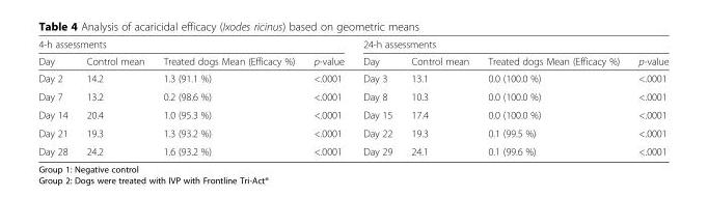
<table><thead><tr><td colspan="4">4-h assessments</td><td colspan="4">24-h assessments</td></tr><tr><td>Day</td><td>Control mean</td><td>Treated dogs Mean (Efficacy %)</td><td>p-value</td><td>Day</td><td>Control mean</td><td>Treated dogs Mean (Efficacy %)</td><td>p-value</td></tr></thead><tbody><tr><td>Day 2</td><td>14.2</td><td>1.3 (91.1 %)</td><td>&lt;.0001</td><td>Day 3</td><td>13.1</td><td>0.0 (100.0 %)</td><td>&lt;.0001</td></tr><tr><td>Day 7</td><td>13.2</td><td>0.2 (98.6 %)</td><td>&lt;.0001</td><td>Day 8</td><td>10.3</td><td>0.0 (100.0 %)</td><td>&lt;.0001</td></tr><tr><td>Day 14</td><td>20.4</td><td>1.0 (95.3 %)</td><td>&lt;.0001</td><td>Day 15</td><td>17.4</td><td>0.0 (100.0 %)</td><td>&lt;.0001</td></tr><tr><td>Day 21</td><td>19.3</td><td>1.3 (93.2 %)</td><td>&lt;.0001</td><td>Day 22</td><td>19.3</td><td>0.1 (99.5 %)</td><td>&lt;.0001</td></tr><tr><td>Day 28</td><td>24.2</td><td>1.6 (93.2 %)</td><td>&lt;.0001</td><td>Day 29</td><td>24.1</td><td>0.1 (99.6 %)</td><td>&lt;.0001</td></tr></tbody></table>